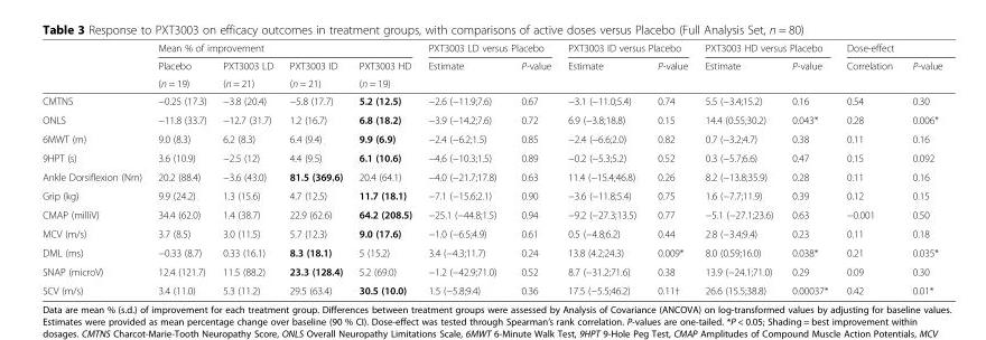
<table><thead><tr><td rowspan="3"></td><td colspan="4">Mean % of improvement</td><td colspan="2">PXT3003 LD versus Placebo</td><td colspan="2">PXT3003 ID versus Placebo</td><td colspan="2">PXT3003 HD versus Placebo</td><td colspan="2">Dose-effect</td></tr><tr><td rowspan="2">Placebo (n = 19)</td><td rowspan="2">PXT3003 LD (n = 21)</td><td rowspan="2">PXT3003 ID (n = 21)</td><td rowspan="2">PXT3003 HD (n = 19)</td><td rowspan="2">Estimate</td><td rowspan="2">P-value</td><td rowspan="2">Estimate</td><td rowspan="2">P-value</td><td rowspan="2">Estimate</td><td rowspan="2">P-value</td><td rowspan="2">Correlation</td><td rowspan="2">P-value</td></tr><tr></tr></thead><tbody><tr><td>CMTNS</td><td>−0.25 (17.3)</td><td>−3.8 (20.4)</td><td>−5.8 (17.7)</td><td>5.2 (12.5)</td><td>−2.6 (−11.9;7.6)</td><td>0.67</td><td>−3.1 (−11.0;5.4)</td><td>0.74</td><td>5.5 (−3.4;15.2)</td><td>0.16</td><td>0.54</td><td>0.30</td></tr><tr><td>ONLS</td><td>−11.8 (33.7)</td><td>−12.7 (31.7)</td><td>1.2 (16.7)</td><td>6.8 (18.2)</td><td>−3.9 (−14.2;7.6)</td><td>0.72</td><td>6.9 (−3.8;18.8)</td><td>0.15</td><td>14.4 (0.55;30.2)</td><td>0.043*</td><td>0.28</td><td>0.006*</td></tr><tr><td>6MWT (m)</td><td>9.0 (8.3)</td><td>6.2 (8.3)</td><td>6.4 (9.4)</td><td>9.9 (6.9)</td><td>−2.4 (−6.2;1.5)</td><td>0.85</td><td>−2.4 (−6.6;2.0)</td><td>0.82</td><td>0.7 (−3.2;4.7)</td><td>0.38</td><td>0.11</td><td>0.16</td></tr><tr><td>9HPT (s)</td><td>3.6 (10.9)</td><td>−2.5 (12)</td><td>4.4 (9.5)</td><td>6.1 (10.6)</td><td>−4.6 (−10.3;1.5)</td><td>0.89</td><td>−0.2 (−5.3;5.2)</td><td>0.52</td><td>0.3 (−5.7;6.6)</td><td>0.47</td><td>0.15</td><td>0.092</td></tr><tr><td>Ankle Dorsiflexion (Nm)</td><td>20.2 (88.4)</td><td>−3.6 (43.0)</td><td>81.5 (369.6)</td><td>20.4 (64.1)</td><td>−4.0 (−21.7;17.8)</td><td>0.63</td><td>11.4 (−15.4;46.8)</td><td>0.26</td><td>8.2 (−13.8;35.9)</td><td>0.28</td><td>0.11</td><td>0.16</td></tr><tr><td>Grip (kg)</td><td>9.9 (24.2)</td><td>1.3 (15.6)</td><td>4.7 (12.5)</td><td>11.7 (18.1)</td><td>−7.1 (−15.6;2.1)</td><td>0.90</td><td>−3.6 (−11.8;5.4)</td><td>0.75</td><td>1.6 (−7.7;11.9)</td><td>0.39</td><td>0.12</td><td>0.15</td></tr><tr><td>CMAP (milliV)</td><td>34.4 (62.0)</td><td>1.4 (38.7)</td><td>22.9 (62.6)</td><td>64.2 (208.5)</td><td>−25.1 (−44.8;1.5)</td><td>0.94</td><td>−9.2 (−27.3;13.5)</td><td>0.77</td><td>−5.1 (−27.1;23.6)</td><td>0.63</td><td>−0.001</td><td>0.50</td></tr><tr><td>MCV (m/s)</td><td>3.7 (8.5)</td><td>3.0 (11.5)</td><td>5.7 (12.3)</td><td>9.0 (17.6)</td><td>−1.0 (−6.5;4.9)</td><td>0.61</td><td>0.5 (−4.8;6.2)</td><td>0.44</td><td>2.8 (−3.4;9.4)</td><td>0.23</td><td>0.11</td><td>0.18</td></tr><tr><td>DML (ms)</td><td>−0.33 (8.7)</td><td>0.33 (16.1)</td><td>8.3 (18.1)</td><td>5 (15.2)</td><td>3.4 (−4.3;11.7)</td><td>0.24</td><td>13.8 (4.2;24.3)</td><td>0.009*</td><td>8.0 (0.59;16.0)</td><td>0.038*</td><td>0.21</td><td>0.035*</td></tr><tr><td>SNAP (microV)</td><td>12.4 (121.7)</td><td>11.5 (88.2)</td><td>23.3 (128.4)</td><td>5.2 (69.0)</td><td>−1.2 (−42.9;71.0)</td><td>0.52</td><td>8.7 (−31.2;71.6)</td><td>0.38</td><td>13.9 (−24.1;71.0)</td><td>0.29</td><td>0.09</td><td>0.30</td></tr><tr><td>SCV (m/s)</td><td>3.4 (11.0)</td><td>5.3 (11.2)</td><td>29.5 (63.4)</td><td>30.5 (10.0)</td><td>1.5 (−5.8;9.4)</td><td>0.36</td><td>17.5 (−5.5;46.2)</td><td>0.11†</td><td>26.6 (15.5;38.8)</td><td>0.00037*</td><td>0.42</td><td>0.01*</td></tr></tbody></table>